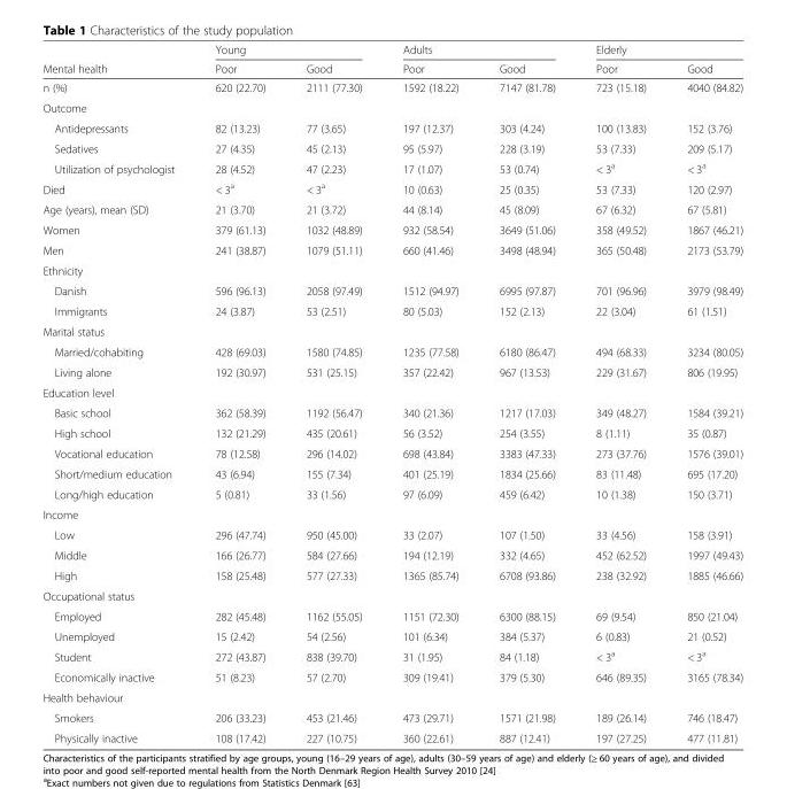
<table><thead><tr><td rowspan="2">Mental health</td><td colspan="2">Young</td><td colspan="2">Adults</td><td colspan="2">Elderly</td></tr><tr><td>Poor</td><td>Good</td><td>Poor</td><td>Good</td><td>Poor</td><td>Good</td></tr></thead><tbody><tr><td>n (%)</td><td>620 (22.70)</td><td>2111 (77.30)</td><td>1592 (18.22)</td><td>7147 (81.78)</td><td>723 (15.18)</td><td>4040 (84.82)</td></tr><tr><td colspan="7">Outcome</td></tr><tr><td>Antidepressants</td><td>82 (13.23)</td><td>77 (3.65)</td><td>197 (12.37)</td><td>303 (4.24)</td><td>100 (13.83)</td><td>152 (3.76)</td></tr><tr><td>Sedatives</td><td>27 (4.35)</td><td>45 (2.13)</td><td>95 (5.97)</td><td>228 (3.19)</td><td>53 (7.33)</td><td>209 (5.17)</td></tr><tr><td>Utilization of psychologist</td><td>28 (4.52)</td><td>47 (2.23)</td><td>17 (1.07)</td><td>53 (0.74)</td><td>&lt; 3<sup>a</sup></td><td>&lt; 3<sup>a</sup></td></tr><tr><td>Died</td><td>&lt; 3<sup>a</sup></td><td>&lt; 3<sup>a</sup></td><td>10 (0.63)</td><td>25 (0.35)</td><td>53 (7.33)</td><td>120 (2.97)</td></tr><tr><td>Age (years), mean (SD)</td><td>21 (3.70)</td><td>21 (3.72)</td><td>44 (8.14)</td><td>45 (8.09)</td><td>67 (6.32)</td><td>67 (5.81)</td></tr><tr><td>Women</td><td>379 (61.13)</td><td>1032 (48.89)</td><td>932 (58.54)</td><td>3649 (51.06)</td><td>358 (49.52)</td><td>1867 (46.21)</td></tr><tr><td>Men</td><td>241 (38.87)</td><td>1079 (51.11)</td><td>660 (41.46)</td><td>3498 (48.94)</td><td>365 (50.48)</td><td>2173 (53.79)</td></tr><tr><td colspan="7">Ethnicity</td></tr><tr><td>Danish</td><td>596 (96.13)</td><td>2058 (97.49)</td><td>1512 (94.97)</td><td>6995 (97.87)</td><td>701 (96.96)</td><td>3979 (98.49)</td></tr><tr><td>Immigrants</td><td>24 (3.87)</td><td>53 (2.51)</td><td>80 (5.03)</td><td>152 (2.13)</td><td>22 (3.04)</td><td>61 (1.51)</td></tr><tr><td colspan="7">Marital status</td></tr><tr><td>Married/cohabiting</td><td>428 (69.03)</td><td>1580 (74.85)</td><td>1235 (77.58)</td><td>6180 (86.47)</td><td>494 (68.33)</td><td>3234 (80.05)</td></tr><tr><td>Living alone</td><td>192 (30.97)</td><td>531 (25.15)</td><td>357 (22.42)</td><td>967 (13.53)</td><td>229 (31.67)</td><td>806 (19.95)</td></tr><tr><td colspan="7">Education level</td></tr><tr><td>Basic school</td><td>362 (58.39)</td><td>1192 (56.47)</td><td>340 (21.36)</td><td>1217 (17.03)</td><td>349 (48.27)</td><td>1584 (39.21)</td></tr><tr><td>High school</td><td>132 (21.29)</td><td>435 (20.61)</td><td>56 (3.52)</td><td>254 (3.55)</td><td>8 (1.11)</td><td>35 (0.87)</td></tr><tr><td>Vocational education</td><td>78 (12.58)</td><td>296 (14.02)</td><td>698 (43.84)</td><td>3383 (47.33)</td><td>273 (37.76)</td><td>1576 (39.01)</td></tr><tr><td>Short/medium education</td><td>43 (6.94)</td><td>155 (7.34)</td><td>401 (25.19)</td><td>1834 (25.66)</td><td>83 (11.48)</td><td>695 (17.20)</td></tr><tr><td>Long/high education</td><td>5 (0.81)</td><td>33 (1.56)</td><td>97 (6.09)</td><td>459 (6.42)</td><td>10 (1.38)</td><td>150 (3.71)</td></tr><tr><td colspan="7">Income</td></tr><tr><td>Low</td><td>296 (47.74)</td><td>950 (45.00)</td><td>33 (2.07)</td><td>107 (1.50)</td><td>33 (4.56)</td><td>158 (3.91)</td></tr><tr><td>Middle</td><td>166 (26.77)</td><td>584 (27.66)</td><td>194 (12.19)</td><td>332 (4.65)</td><td>452 (62.52)</td><td>1997 (49.43)</td></tr><tr><td>High</td><td>158 (25.48)</td><td>577 (27.33)</td><td>1365 (85.74)</td><td>6708 (93.86)</td><td>238 (32.92)</td><td>1885 (46.66)</td></tr><tr><td colspan="7">Occupational status</td></tr><tr><td>Employed</td><td>282 (45.48)</td><td>1162 (55.05)</td><td>1151 (72.30)</td><td>6300 (88.15)</td><td>69 (9.54)</td><td>850 (21.04)</td></tr><tr><td>Unemployed</td><td>15 (2.42)</td><td>54 (2.56)</td><td>101 (6.34)</td><td>384 (5.37)</td><td>6 (0.83)</td><td>21 (0.52)</td></tr><tr><td>Student</td><td>272 (43.87)</td><td>838 (39.70)</td><td>31 (1.95)</td><td>84 (1.18)</td><td>&lt; 3<sup>a</sup></td><td>&lt; 3<sup>a</sup></td></tr><tr><td>Economically inactive</td><td>51 (8.23)</td><td>57 (2.70)</td><td>309 (19.41)</td><td>379 (5.30)</td><td>646 (89.35)</td><td>3165 (78.34)</td></tr><tr><td colspan="7">Health behaviour</td></tr><tr><td>Smokers</td><td>206 (33.23)</td><td>453 (21.46)</td><td>473 (29.71)</td><td>1571 (21.98)</td><td>189 (26.14)</td><td>746 (18.47)</td></tr><tr><td>Physically inactive</td><td>108 (17.42)</td><td>227 (10.75)</td><td>360 (22.61)</td><td>887 (12.41)</td><td>197 (27.25)</td><td>477 (11.81)</td></tr></tbody></table>